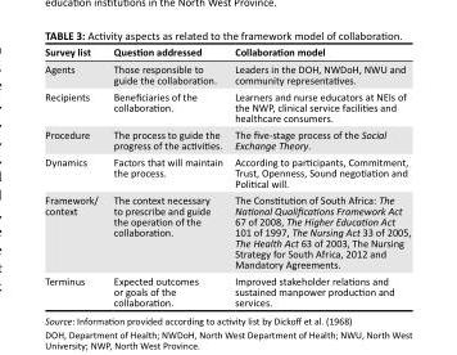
<table><thead><tr><td>Survey list</td><td>Question addressed</td><td>Collaboration model</td></tr></thead><tbody><tr><td>Agents</td><td>Those responsible to guide the collaboration.</td><td>Leaders in the DOH, NWDoH, NWU and community representatives.</td></tr><tr><td>Recipients</td><td>Beneficiaries of the collaboration.</td><td>Learners and nurse educators at NEIs of the NWP, clinical service facilities and healthcare consumers.</td></tr><tr><td>Procedure</td><td>The process to guide the progress of the activities.</td><td>The five-stage process of the Social Exchange Theory.</td></tr><tr><td>Dynamics</td><td>Factors that will maintain the process.</td><td>According to participants, Commitment, Trust, Openness, Sound negotiation and Political will.</td></tr><tr><td>Framework/ context</td><td>The context necessary to prescribe and guide the operation of the collaboration.</td><td>The Constitution of South Africa: The National Qualifications Framework Act 67 of 2008, The Higher Education Act 101 of 1997, The Nursing Act 33 of 2005, The Health Act 63 of 2003, The Nursing Strategy for South Africa, 2012 and Mandatory Agreements.</td></tr><tr><td>Terminus</td><td>Expected outcomes or goals of the collaboration.</td><td>Improved stakeholder relations and sustained manpower production and services.</td></tr></tbody></table>